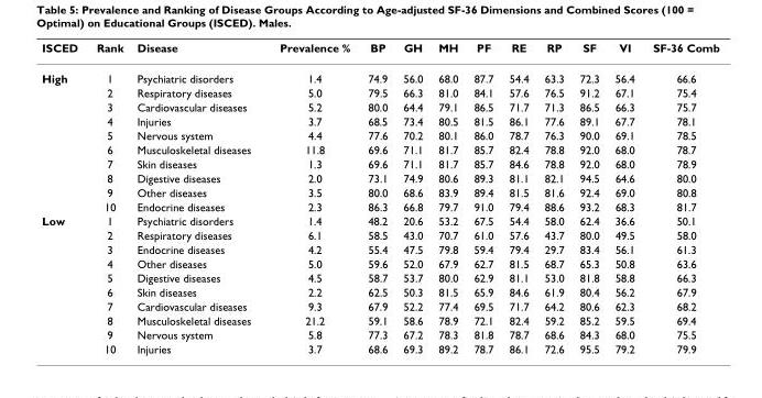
<table><thead><tr><td>ISCED</td><td>Rank</td><td>Disease</td><td>Prevalence %</td><td>BP</td><td>GH</td><td>MH</td><td>PF</td><td>RE</td><td>RP</td><td>SF</td><td>VI</td><td>SF-36 Comb</td></tr></thead><tbody><tr><td rowspan="10">High</td><td>1</td><td>Psychiatric disorders</td><td>1.4</td><td>74.9</td><td>56.0</td><td>68.0</td><td>87.7</td><td>54.4</td><td>63.3</td><td>72.3</td><td>56.4</td><td>66.6</td></tr><tr><td>2</td><td>Respiratory diseases</td><td>5.0</td><td>79.5</td><td>66.3</td><td>81.0</td><td>84.1</td><td>57.6</td><td>76.5</td><td>91.2</td><td>67.1</td><td>75.4</td></tr><tr><td>3</td><td>Cardiovascular diseases</td><td>5.2</td><td>80.0</td><td>64.4</td><td>79.1</td><td>86.5</td><td>71.7</td><td>71.3</td><td>86.5</td><td>66.3</td><td>75.7</td></tr><tr><td>4</td><td>Injuries</td><td>3.7</td><td>68.5</td><td>73.4</td><td>80.5</td><td>81.5</td><td>86.1</td><td>77.6</td><td>89.1</td><td>67.7</td><td>78.1</td></tr><tr><td>5</td><td>Nervous system</td><td>4.4</td><td>77.6</td><td>70.2</td><td>80.1</td><td>86.0</td><td>78.7</td><td>76.3</td><td>90.0</td><td>69.1</td><td>78.5</td></tr><tr><td>6</td><td>Musculoskeletal diseases</td><td>11.8</td><td>69.6</td><td>71.1</td><td>81.7</td><td>85.7</td><td>82.4</td><td>78.8</td><td>92.0</td><td>68.0</td><td>78.7</td></tr><tr><td>7</td><td>Skin diseases</td><td>1.3</td><td>69.6</td><td>71.1</td><td>81.7</td><td>85.7</td><td>84.6</td><td>78.8</td><td>92.0</td><td>68.0</td><td>78.9</td></tr><tr><td>8</td><td>Digestive diseases</td><td>2.0</td><td>73.1</td><td>74.9</td><td>80.6</td><td>89.3</td><td>81.1</td><td>82.1</td><td>94.5</td><td>64.6</td><td>80.0</td></tr><tr><td>9</td><td>Other diseases</td><td>3.5</td><td>80.0</td><td>68.6</td><td>83.9</td><td>89.4</td><td>81.5</td><td>81.6</td><td>92.4</td><td>69.0</td><td>80.8</td></tr><tr><td>10</td><td>Endocrine diseases</td><td>2.3</td><td>86.3</td><td>66.8</td><td>79.7</td><td>91.0</td><td>79.4</td><td>88.6</td><td>93.2</td><td>68.3</td><td>81.7</td></tr><tr><td rowspan="10">Low</td><td>1</td><td>Psychiatric disorders</td><td>1.4</td><td>48.2</td><td>20.6</td><td>53.2</td><td>67.5</td><td>54.4</td><td>58.0</td><td>62.4</td><td>36.6</td><td>50.1</td></tr><tr><td>2</td><td>Respiratory diseases</td><td>6.1</td><td>58.5</td><td>43.0</td><td>70.7</td><td>61.0</td><td>57.6</td><td>43.7</td><td>80.0</td><td>49.5</td><td>58.0</td></tr><tr><td>3</td><td>Endocrine diseases</td><td>4.2</td><td>55.4</td><td>47.5</td><td>79.8</td><td>59.4</td><td>79.4</td><td>29.7</td><td>83.4</td><td>56.1</td><td>61.3</td></tr><tr><td>4</td><td>Other diseases</td><td>5.0</td><td>59.6</td><td>52.0</td><td>67.9</td><td>62.7</td><td>81.5</td><td>68.7</td><td>65.3</td><td>50.8</td><td>63.6</td></tr><tr><td>5</td><td>Digestive diseases</td><td>4.5</td><td>58.7</td><td>53.7</td><td>80.0</td><td>62.9</td><td>81.1</td><td>53.0</td><td>81.8</td><td>58.8</td><td>66.3</td></tr><tr><td>6</td><td>Skin diseases</td><td>2.2</td><td>62.5</td><td>50.3</td><td>81.5</td><td>65.9</td><td>84.6</td><td>61.9</td><td>80.4</td><td>56.2</td><td>67.9</td></tr><tr><td>7</td><td>Cardiovascular diseases</td><td>9.3</td><td>67.9</td><td>52.2</td><td>77.4</td><td>69.5</td><td>71.7</td><td>64.2</td><td>80.6</td><td>62.3</td><td>68.2</td></tr><tr><td>8</td><td>Musculoskeletal diseases</td><td>21.2</td><td>59.1</td><td>58.6</td><td>78.9</td><td>72.1</td><td>82.4</td><td>59.2</td><td>85.2</td><td>59.5</td><td>69.4</td></tr><tr><td>9</td><td>Nervous system</td><td>5.8</td><td>77.3</td><td>67.2</td><td>78.3</td><td>81.8</td><td>78.7</td><td>68.6</td><td>84.3</td><td>68.0</td><td>75.5</td></tr><tr><td>10</td><td>Injuries</td><td>3.7</td><td>68.6</td><td>69.3</td><td>89.2</td><td>78.7</td><td>86.1</td><td>72.6</td><td>95.5</td><td>79.2</td><td>79.9</td></tr></tbody></table>